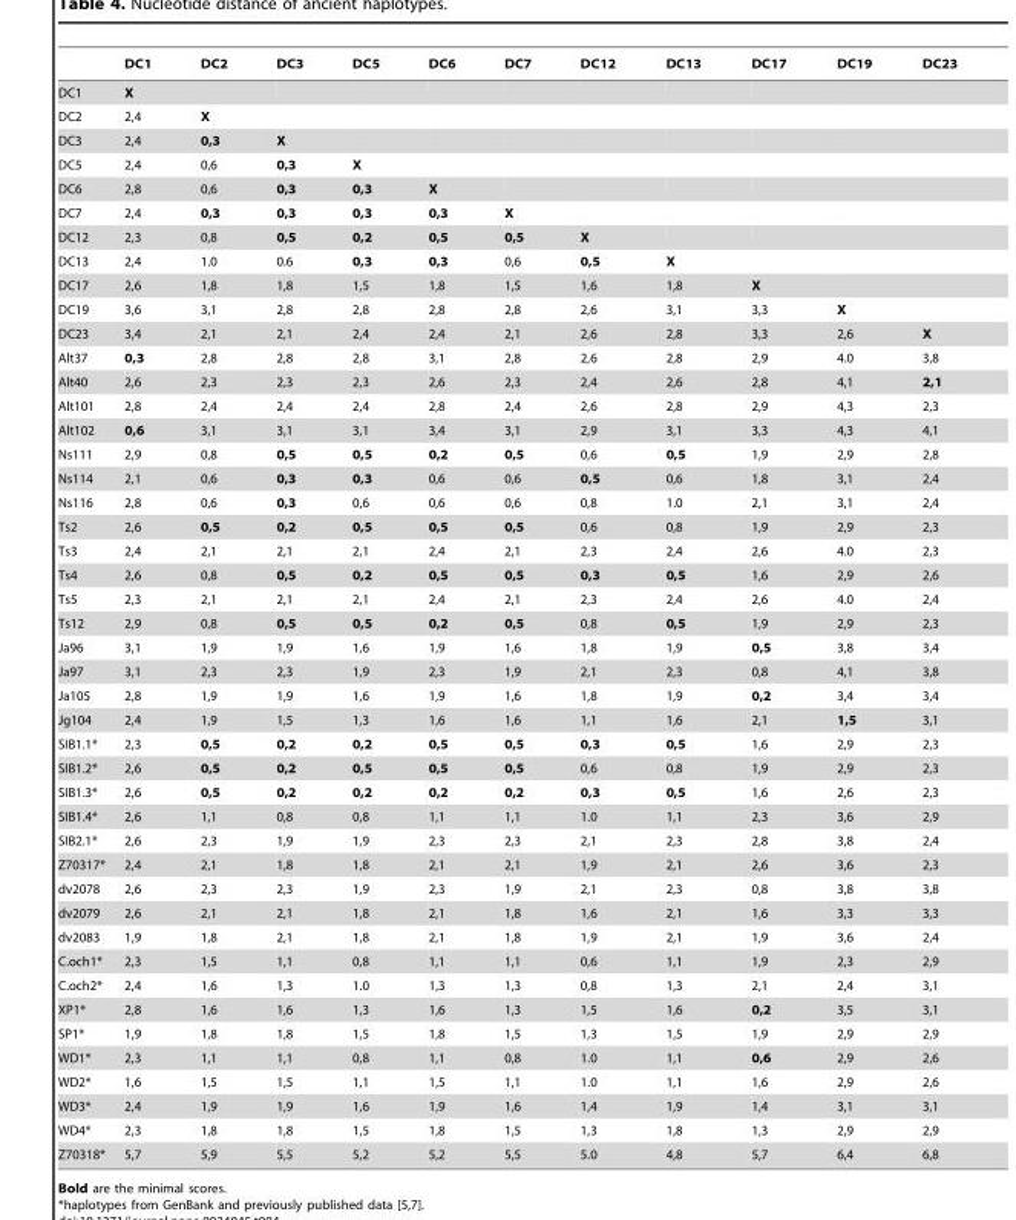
<table><thead><tr><td></td><td>DC1</td><td>DC2</td><td>DC3</td><td>DC5</td><td>DC6</td><td>DC7</td><td>DC12</td><td>DC13</td><td>DC17</td><td>DC19</td><td>DC23</td></tr></thead><tbody><tr><td>DC1</td><td>X</td><td></td><td></td><td></td><td></td><td></td><td></td><td></td><td></td><td></td><td></td></tr><tr><td>DC2</td><td>2,4</td><td>X</td><td></td><td></td><td></td><td></td><td></td><td></td><td></td><td></td><td></td></tr><tr><td>DC3</td><td>2,4</td><td>0,3</td><td>X</td><td></td><td></td><td></td><td></td><td></td><td></td><td></td><td></td></tr><tr><td>DC5</td><td>2,4</td><td>0,6</td><td>0,3</td><td>X</td><td></td><td></td><td></td><td></td><td></td><td></td><td></td></tr><tr><td>DC6</td><td>2,8</td><td>0,6</td><td>0,3</td><td>0,3</td><td>X</td><td></td><td></td><td></td><td></td><td></td><td></td></tr><tr><td>DC7</td><td>2,4</td><td>0,3</td><td>0,3</td><td>0,3</td><td>0,3</td><td>X</td><td></td><td></td><td></td><td></td><td></td></tr><tr><td>DC12</td><td>2,3</td><td>0,8</td><td>0,5</td><td>0,2</td><td>0,5</td><td>0,5</td><td>X</td><td></td><td></td><td></td><td></td></tr><tr><td>DC13</td><td>2,4</td><td>1.0</td><td>0.6</td><td>0,3</td><td>0,3</td><td>0,6</td><td>0,5</td><td>X</td><td></td><td></td><td></td></tr><tr><td>DC17</td><td>2,6</td><td>1,8</td><td>1,8</td><td>1,5</td><td>1,8</td><td>1,5</td><td>1,6</td><td>1,8</td><td>X</td><td></td><td></td></tr><tr><td>DC19</td><td>3,6</td><td>3,1</td><td>2,8</td><td>2,8</td><td>2,8</td><td>2,8</td><td>2,6</td><td>3,1</td><td>3,3</td><td>X</td><td></td></tr><tr><td>DC23</td><td>3,4</td><td>2,1</td><td>2,1</td><td>2,4</td><td>2,4</td><td>2,1</td><td>2,6</td><td>2,8</td><td>3,3</td><td>2,6</td><td>X</td></tr><tr><td>Alt37</td><td>0,3</td><td>2,8</td><td>2,8</td><td>2,8</td><td>3,1</td><td>2,8</td><td>2,6</td><td>2,8</td><td>2,9</td><td>4.0</td><td>3,8</td></tr><tr><td>Alt40</td><td>2,6</td><td>2,3</td><td>2,3</td><td>2,3</td><td>2,6</td><td>2,3</td><td>2,4</td><td>2,6</td><td>2,8</td><td>4,1</td><td>2,1</td></tr><tr><td>Alt101</td><td>2,8</td><td>2,4</td><td>2,4</td><td>2,4</td><td>2,8</td><td>2,4</td><td>2,6</td><td>2,8</td><td>2,9</td><td>4,3</td><td>2,3</td></tr><tr><td>Alt102</td><td>0,6</td><td>3,1</td><td>3,1</td><td>3,1</td><td>3,4</td><td>3,1</td><td>2,9</td><td>3,1</td><td>3,3</td><td>4,3</td><td>4,1</td></tr><tr><td>Ns111</td><td>2,9</td><td>0,8</td><td>0,5</td><td>0,5</td><td>0,2</td><td>0,5</td><td>0,6</td><td>0,5</td><td>1,9</td><td>2,9</td><td>2,8</td></tr><tr><td>Ns114</td><td>2,1</td><td>0,6</td><td>0,3</td><td>0,3</td><td>0,6</td><td>0,6</td><td>0,5</td><td>0,6</td><td>1,8</td><td>3,1</td><td>2,4</td></tr><tr><td>Ns116</td><td>2,8</td><td>0,6</td><td>0,3</td><td>0,6</td><td>0,6</td><td>0,6</td><td>0,8</td><td>1.0</td><td>2,1</td><td>3,1</td><td>2,4</td></tr><tr><td>Ts2</td><td>2,6</td><td>0,5</td><td>0,2</td><td>0,5</td><td>0,5</td><td>0,5</td><td>0,6</td><td>0,8</td><td>1,9</td><td>2,9</td><td>2,3</td></tr><tr><td>Ts3</td><td>2,4</td><td>2,1</td><td>2,1</td><td>2,1</td><td>2,4</td><td>2,1</td><td>2,3</td><td>2,4</td><td>2,6</td><td>4.0</td><td>2,3</td></tr><tr><td>Ts4</td><td>2,6</td><td>0,8</td><td>0,5</td><td>0,2</td><td>0,5</td><td>0,5</td><td>0,3</td><td>0,5</td><td>1,6</td><td>2,9</td><td>2,6</td></tr><tr><td>Ts5</td><td>2,3</td><td>2,1</td><td>2,1</td><td>2,1</td><td>2,4</td><td>2,1</td><td>2,3</td><td>2,4</td><td>2,6</td><td>4.0</td><td>2,4</td></tr><tr><td>Ts12</td><td>2,9</td><td>0,8</td><td>0,5</td><td>0,5</td><td>0,2</td><td>0,5</td><td>0,8</td><td>0,5</td><td>1,9</td><td>2,9</td><td>2,3</td></tr><tr><td>Ja96</td><td>3,1</td><td>1,9</td><td>1,9</td><td>1,6</td><td>1,9</td><td>1,6</td><td>1,8</td><td>1,9</td><td>0,5</td><td>3,8</td><td>3,4</td></tr><tr><td>Ja97</td><td>3,1</td><td>2,3</td><td>2,3</td><td>1,9</td><td>2,3</td><td>1,9</td><td>2,1</td><td>2,3</td><td>0,8</td><td>4,1</td><td>3,8</td></tr><tr><td>Ja105</td><td>2,8</td><td>1,9</td><td>1,9</td><td>1,6</td><td>1,9</td><td>1,6</td><td>1,8</td><td>1,9</td><td>0,2</td><td>3,4</td><td>3,4</td></tr><tr><td>Jg104</td><td>2,4</td><td>1,9</td><td>1,5</td><td>1,3</td><td>1,6</td><td>1,6</td><td>1,1</td><td>1,6</td><td>2,1</td><td>1,5</td><td>3,1</td></tr><tr><td>SIB1.1*</td><td>2,3</td><td>0,5</td><td>0,2</td><td>0,2</td><td>0,5</td><td>0,5</td><td>0,3</td><td>0,5</td><td>1,6</td><td>2,9</td><td>2,3</td></tr><tr><td>SIB1.2*</td><td>2,6</td><td>0,5</td><td>0,2</td><td>0,5</td><td>0,5</td><td>0,5</td><td>0,6</td><td>0,8</td><td>1,9</td><td>2,9</td><td>2,3</td></tr><tr><td>SIB1.3*</td><td>2,6</td><td>0,5</td><td>0,2</td><td>0,2</td><td>0,2</td><td>0,2</td><td>0,3</td><td>0,5</td><td>1,6</td><td>2,6</td><td>2,3</td></tr><tr><td>SIB1.4*</td><td>2,6</td><td>1,1</td><td>0,8</td><td>0,8</td><td>1,1</td><td>1,1</td><td>1.0</td><td>1,1</td><td>2,3</td><td>3,6</td><td>2,9</td></tr><tr><td>SIB2.1*</td><td>2,6</td><td>2,3</td><td>1,9</td><td>1,9</td><td>2,3</td><td>2,3</td><td>2,1</td><td>2,3</td><td>2,8</td><td>3,8</td><td>2,4</td></tr><tr><td>Z70317*</td><td>2,4</td><td>2,1</td><td>1,8</td><td>1,8</td><td>2,1</td><td>2,1</td><td>1,9</td><td>2,1</td><td>2,6</td><td>3,6</td><td>2,3</td></tr><tr><td>dv2078</td><td>2,6</td><td>2,3</td><td>2,3</td><td>1,9</td><td>2,3</td><td>1,9</td><td>2,1</td><td>2,3</td><td>0,8</td><td>3,8</td><td>3,8</td></tr><tr><td>dv2079</td><td>2,6</td><td>2,1</td><td>2,1</td><td>1,8</td><td>2,1</td><td>1,8</td><td>1,6</td><td>2,1</td><td>1,6</td><td>3,3</td><td>3,3</td></tr><tr><td>dv2083</td><td>1,9</td><td>1,8</td><td>2,1</td><td>1,8</td><td>2,1</td><td>1,8</td><td>1,9</td><td>2,1</td><td>1,9</td><td>3,6</td><td>2,4</td></tr><tr><td>C.och1*</td><td>2,3</td><td>1,5</td><td>1,1</td><td>0,8</td><td>1,1</td><td>1,1</td><td>0,6</td><td>1,1</td><td>1,9</td><td>2,3</td><td>2,9</td></tr><tr><td>C.och2*</td><td>2,4</td><td>1,6</td><td>1,3</td><td>1.0</td><td>1,3</td><td>1,3</td><td>0,8</td><td>1,3</td><td>2,1</td><td>2,4</td><td>3,1</td></tr><tr><td>XP1*</td><td>2,8</td><td>1,6</td><td>1,6</td><td>1,3</td><td>1,6</td><td>1,3</td><td>1,5</td><td>1,6</td><td>0,2</td><td>3,5</td><td>3,1</td></tr><tr><td>SP1*</td><td>1,9</td><td>1,8</td><td>1,8</td><td>1,5</td><td>1,8</td><td>1,5</td><td>1,3</td><td>1,5</td><td>1,9</td><td>2,9</td><td>2,9</td></tr><tr><td>WD1*</td><td>2,3</td><td>1,1</td><td>1,1</td><td>0,8</td><td>1,1</td><td>0,8</td><td>1.0</td><td>1,1</td><td>0,6</td><td>2,9</td><td>2,6</td></tr><tr><td>WD2*</td><td>1,6</td><td>1,5</td><td>1,5</td><td>1,1</td><td>1,5</td><td>1,1</td><td>1.0</td><td>1,1</td><td>1,6</td><td>2,9</td><td>2,6</td></tr><tr><td>WD3*</td><td>2,4</td><td>1,9</td><td>1,9</td><td>1,6</td><td>1,9</td><td>1,6</td><td>1,4</td><td>1,9</td><td>1,4</td><td>3,1</td><td>3,1</td></tr><tr><td>WD4*</td><td>2,3</td><td>1,8</td><td>1,8</td><td>1,5</td><td>1,8</td><td>1,5</td><td>1,3</td><td>1,8</td><td>1,3</td><td>2,9</td><td>2,9</td></tr><tr><td>Z70318*</td><td>5,7</td><td>5,9</td><td>5,5</td><td>5,2</td><td>5,2</td><td>5,5</td><td>5.0</td><td>4,8</td><td>5,7</td><td>6,4</td><td>6,8</td></tr></tbody></table>